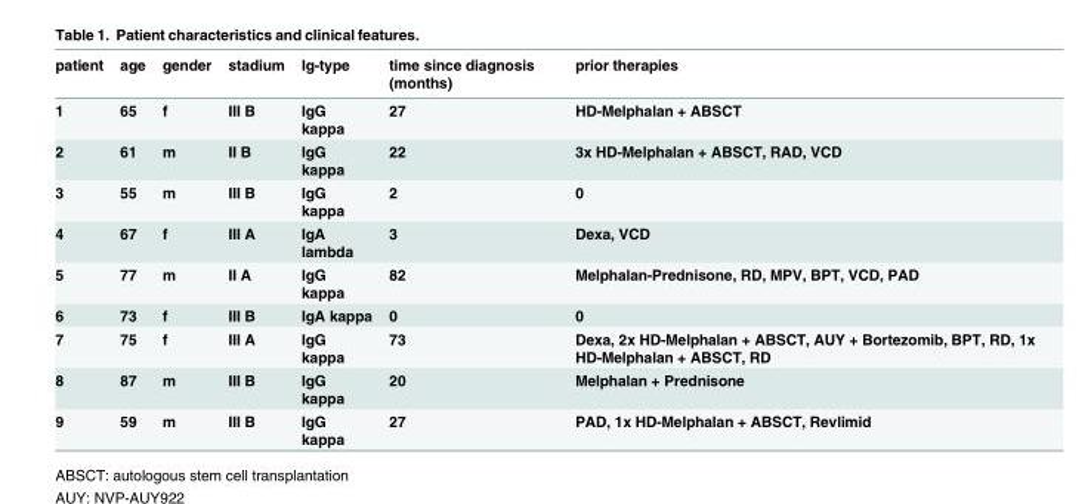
<table><thead><tr><td>patient</td><td>age</td><td>gender</td><td>stadium</td><td>Ig-type</td><td>time since diagnosis (months)</td><td>prior therapies</td></tr></thead><tbody><tr><td>1</td><td>65</td><td>f</td><td>III B</td><td>IgG kappa</td><td>27</td><td>HD-Melphalan + ABSCT</td></tr><tr><td>2</td><td>61</td><td>m</td><td>II B</td><td>IgG kappa</td><td>22</td><td>3x HD-Melphalan + ABSCT, RAD, VCD</td></tr><tr><td>3</td><td>55</td><td>m</td><td>III B</td><td>IgG kappa</td><td>2</td><td>0</td></tr><tr><td>4</td><td>67</td><td>f</td><td>III A</td><td>IgA lambda</td><td>3</td><td>Dexa, VCD</td></tr><tr><td>5</td><td>77</td><td>m</td><td>II A</td><td>IgG kappa</td><td>82</td><td>Melphalan-Prednisone, RD, MPV, BPT, VCD, PAD</td></tr><tr><td>6</td><td>73</td><td>f</td><td>III B</td><td>IgA kappa</td><td>0</td><td>0</td></tr><tr><td>7</td><td>75</td><td>f</td><td>III A</td><td>IgG kappa</td><td>73</td><td>Dexa, 2x HD-Melphalan + ABSCT, AUY + Bortezomib, BPT, RD, 1x HD-Melphalan + ABSCT, RD</td></tr><tr><td>8</td><td>87</td><td>m</td><td>III B</td><td>IgG kappa</td><td>20</td><td>Melphalan + Prednisone</td></tr><tr><td>9</td><td>59</td><td>m</td><td>III B</td><td>IgG kappa</td><td>27</td><td>PAD, 1x HD-Melphalan + ABSCT, Revlimid</td></tr></tbody></table>